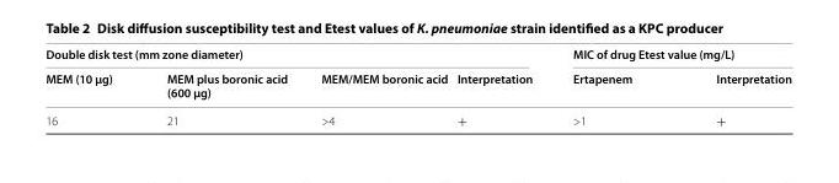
<table><thead><tr><td colspan="4">Double disk test (mm zone diameter)</td><td colspan="2">MIC of drug Etest value (mg/L)</td></tr><tr><td>MEM (10 µg)</td><td>MEM plus boronic acid (600 µg)</td><td>MEM/MEM boronic acid</td><td>Interpretation</td><td>Ertapenem</td><td>Interpretation</td></tr></thead><tbody><tr><td>16</td><td>21</td><td>&gt;4</td><td>+</td><td>&gt;1</td><td>+</td></tr></tbody></table>